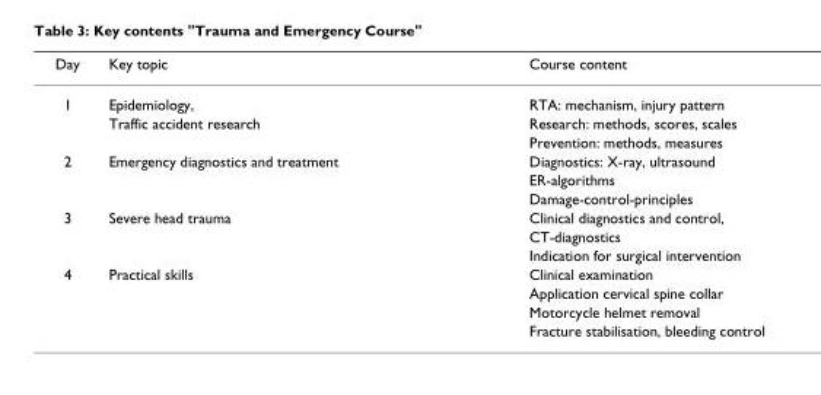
<table><thead><tr><td>Day</td><td>Key topic</td><td>Course content</td></tr></thead><tbody><tr><td rowspan="3">1</td><td>Epidemiology,</td><td>RTA: mechanism, injury pattern</td></tr><tr><td>Traffic accident research</td><td>Research: methods, scores, scales</td></tr><tr><td></td><td>Prevention: methods, measures</td></tr><tr><td rowspan="3">2</td><td>Emergency diagnostics and treatment</td><td>Diagnostics: X-ray, ultrasound</td></tr><tr><td></td><td>ER-algorithms</td></tr><tr><td></td><td>Damage-control-principles</td></tr><tr><td rowspan="3">3</td><td>Severe head trauma</td><td>Clinical diagnostics and control,</td></tr><tr><td></td><td>CT-diagnostics</td></tr><tr><td></td><td>Indication for surgical intervention</td></tr><tr><td rowspan="4">4</td><td>Practical skills</td><td>Clinical examination</td></tr><tr><td></td><td>Application cervical spine collar</td></tr><tr><td></td><td>Motorcycle helmet removal</td></tr><tr><td></td><td>Fracture stabilisation, bleeding control</td></tr></tbody></table>